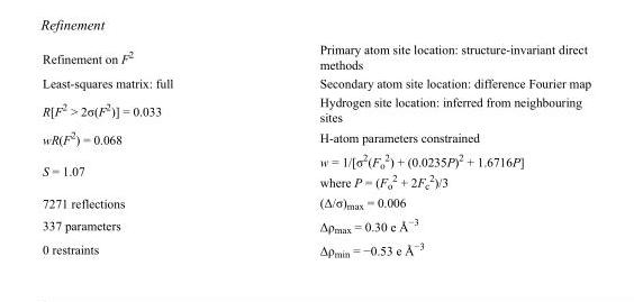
<table><tbody><tr><td>Refinement on F<sup>2</sup></td><td>Primary atom site location: structure-invariant direct methods</td></tr><tr><td>Least-squares matrix: full</td><td>Secondary atom site location: difference Fourier map</td></tr><tr><td>R[F<sup>2</sup> &gt; 2σ(F<sup>2</sup>)] = 0.033</td><td>Hydrogen site location: inferred from neighbouring sites</td></tr><tr><td>wR(F<sup>2</sup>) = 0.068</td><td>H-atom parameters constrained</td></tr><tr><td>S = 1.07</td><td>w = 1/[σ<sup>2</sup>(F<sub>o</sub> <sup>2</sup>) + (0.0235P)<sup>2</sup> + 1.6716P] where P = (F<sub>o</sub> <sup>2</sup> + 2F<sub>c</sub> <sup>2</sup>)/3</td></tr><tr><td>7271 reflections</td><td>(Δ/σ)<sub>max</sub> = 0.006</td></tr><tr><td>337 parameters</td><td>Δρ<sub>max</sub> = 0.30 e Å<sup>−3</sup></td></tr><tr><td>0 restraints</td><td>Δρ<sub>min</sub> = −0.53 e Å<sup>−3</sup></td></tr></tbody></table>